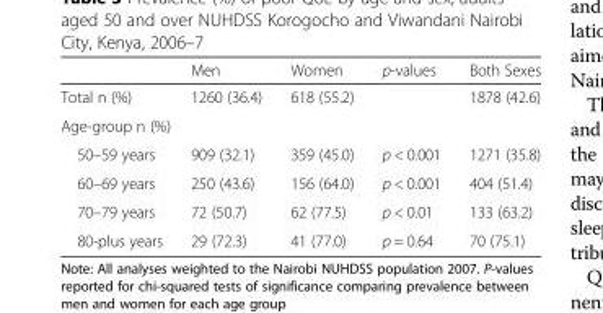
<table><thead><tr><td></td><td>Men</td><td>Women</td><td>p-values</td><td>Both Sexes</td></tr></thead><tbody><tr><td>Total n (%)</td><td>1260 (36.4)</td><td>618 (55.2)</td><td></td><td>1878 (42.6)</td></tr><tr><td colspan="5">Age-group n (%)</td></tr><tr><td>50–59 years</td><td>909 (32.1)</td><td>359 (45.0)</td><td>p &lt; 0.001</td><td>1271 (35.8)</td></tr><tr><td>60–69 years</td><td>250 (43.6)</td><td>156 (64.0)</td><td>p &lt; 0.001</td><td>404 (51.4)</td></tr><tr><td>70–79 years</td><td>72 (50.7)</td><td>62 (77.5)</td><td>p &lt; 0.01</td><td>133 (63.2)</td></tr><tr><td>80-plus years</td><td>29 (72.3)</td><td>41 (77.0)</td><td>p = 0.64</td><td>70 (75.1)</td></tr></tbody></table>